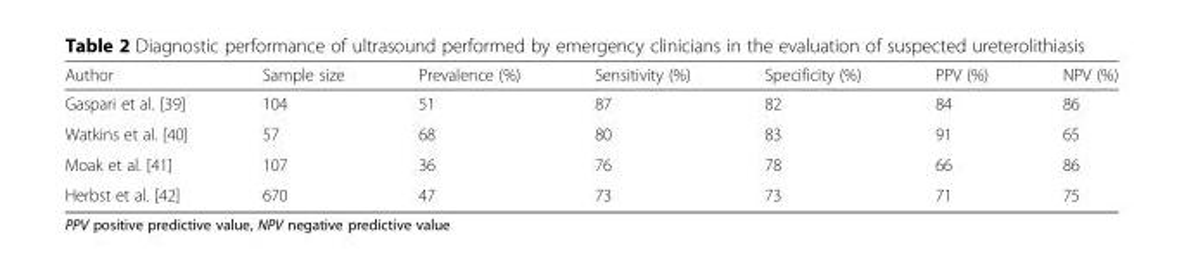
<table><thead><tr><td>Author</td><td>Sample size</td><td>Prevalence (%)</td><td>Sensitivity (%)</td><td>Specificity (%)</td><td>PPV (%)</td><td>NPV (%)</td></tr></thead><tbody><tr><td>Gaspari et al. [39]</td><td>104</td><td>51</td><td>87</td><td>82</td><td>84</td><td>86</td></tr><tr><td>Watkins et al. [40]</td><td>57</td><td>68</td><td>80</td><td>83</td><td>91</td><td>65</td></tr><tr><td>Moak et al. [41]</td><td>107</td><td>36</td><td>76</td><td>78</td><td>66</td><td>86</td></tr><tr><td>Herbst et al. [42]</td><td>670</td><td>47</td><td>73</td><td>73</td><td>71</td><td>75</td></tr></tbody></table>